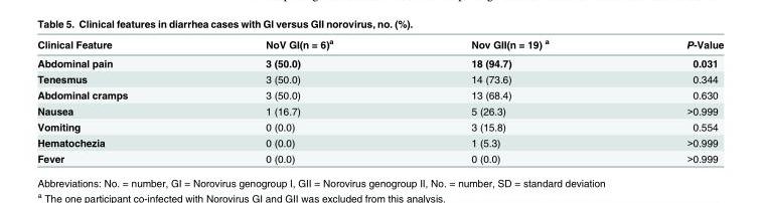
<table><thead><tr><td>Clinical Feature</td><td>NoV GI(n = 6)<sup>a</sup></td><td>Nov GII(n = 19) <sup>a</sup></td><td>P-Value</td></tr></thead><tbody><tr><td>Abdominal pain</td><td>3 (50.0)</td><td>18 (94.7)</td><td>0.031</td></tr><tr><td>Tenesmus</td><td>3 (50.0)</td><td>14 (73.6)</td><td>0.344</td></tr><tr><td>Abdominal cramps</td><td>3 (50.0)</td><td>13 (68.4)</td><td>0.630</td></tr><tr><td>Nausea</td><td>1 (16.7)</td><td>5 (26.3)</td><td>&gt;0.999</td></tr><tr><td>Vomiting</td><td>0 (0.0)</td><td>3 (15.8)</td><td>0.554</td></tr><tr><td>Hematochezia</td><td>0 (0.0)</td><td>1 (5.3)</td><td>&gt;0.999</td></tr><tr><td>Fever</td><td>0 (0.0)</td><td>0 (0.0)</td><td>&gt;0.999</td></tr></tbody></table>